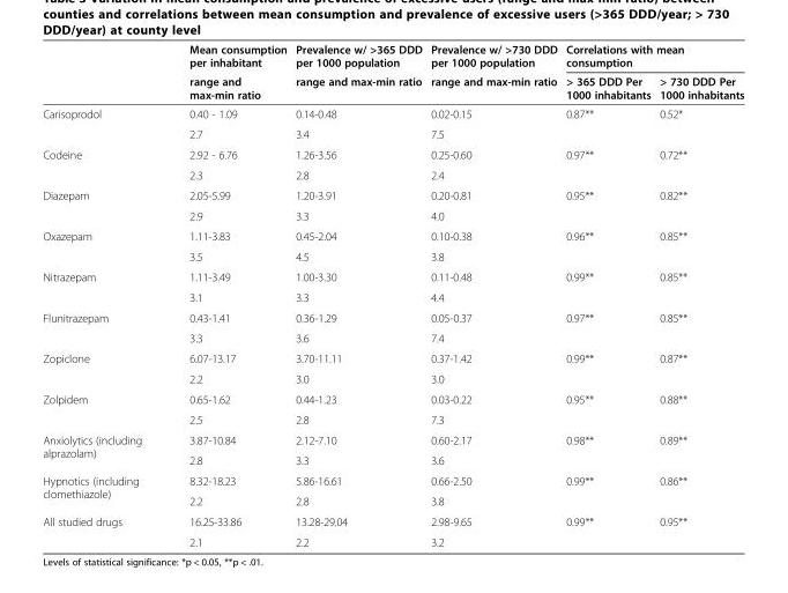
<table><thead><tr><td rowspan="2"></td><td rowspan="2">Mean consumption per inhabitant range and max-min ratio</td><td rowspan="2">Prevalence w/ &gt;365 DDD per 1000 population range and max-min ratio</td><td rowspan="2">Prevalence w/ &gt;730 DDD per 1000 population range and max-min ratio</td><td colspan="2">Correlations with mean consumption</td></tr><tr><td>&gt; 365 DDD Per 1000 inhabitants</td><td>&gt; 730 DDD Per 1000 inhabitants</td></tr></thead><tbody><tr><td rowspan="2">Carisoprodol</td><td>0.40 - 1.09</td><td>0.14-0.48</td><td>0.02-0.15</td><td rowspan="2">0.87**</td><td rowspan="2">0.52*</td></tr><tr><td>2.7</td><td>3.4</td><td>7.5</td></tr><tr><td rowspan="2">Codeine</td><td>2.92 - 6.76</td><td>1.26-3.56</td><td>0.25-0.60</td><td rowspan="2">0.97**</td><td rowspan="2">0.72**</td></tr><tr><td>2.3</td><td>2.8</td><td>2.4</td></tr><tr><td rowspan="2">Diazepam</td><td>2.05-5.99</td><td>1.20-3.91</td><td>0.20-0.81</td><td rowspan="2">0.95**</td><td rowspan="2">0.82**</td></tr><tr><td>2.9</td><td>3.3</td><td>4.0</td></tr><tr><td rowspan="2">Oxazepam</td><td>1.11-3.83</td><td>0.45-2.04</td><td>0.10-0.38</td><td rowspan="2">0.96**</td><td rowspan="2">0.85**</td></tr><tr><td>3.5</td><td>4.5</td><td>3.8</td></tr><tr><td rowspan="2">Nitrazepam</td><td>1.11-3.49</td><td>1.00-3.30</td><td>0.11-0.48</td><td rowspan="2">0.99**</td><td rowspan="2">0.85**</td></tr><tr><td>3.1</td><td>3.3</td><td>4.4</td></tr><tr><td rowspan="2">Flunitrazepam</td><td>0.43-1.41</td><td>0.36-1.29</td><td>0.05-0.37</td><td rowspan="2">0.97**</td><td rowspan="2">0.85**</td></tr><tr><td>3.3</td><td>3.6</td><td>7.4</td></tr><tr><td rowspan="2">Zopiclone</td><td>6.07-13.17</td><td>3.70-11.11</td><td>0.37-1.42</td><td rowspan="2">0.99**</td><td rowspan="2">0.87**</td></tr><tr><td>2.2</td><td>3.0</td><td>3.0</td></tr><tr><td rowspan="2">Zolpidem</td><td>0.65-1.62</td><td>0.44-1.23</td><td>0.03-0.22</td><td rowspan="2">0.95**</td><td rowspan="2">0.88**</td></tr><tr><td>2.5</td><td>2.8</td><td>7.3</td></tr><tr><td rowspan="2">Anxiolytics (including alprazolam)</td><td>3.87-10.84</td><td>2.12-7.10</td><td>0.60-2.17</td><td rowspan="2">0.98**</td><td rowspan="2">0.89**</td></tr><tr><td>2.8</td><td>3.3</td><td>3.6</td></tr><tr><td rowspan="2">Hypnotics (including clomethiazole)</td><td>8.32-18.23</td><td>5.86-16.61</td><td>0.66-2.50</td><td rowspan="2">0.99**</td><td rowspan="2">0.86**</td></tr><tr><td>2.2</td><td>2.8</td><td>3.8</td></tr><tr><td rowspan="2">All studied drugs</td><td>16.25-33.86</td><td>13.28-29.04</td><td>2.98-9.65</td><td rowspan="2">0.99**</td><td rowspan="2">0.95**</td></tr><tr><td>2.1</td><td>2.2</td><td>3.2</td></tr></tbody></table>